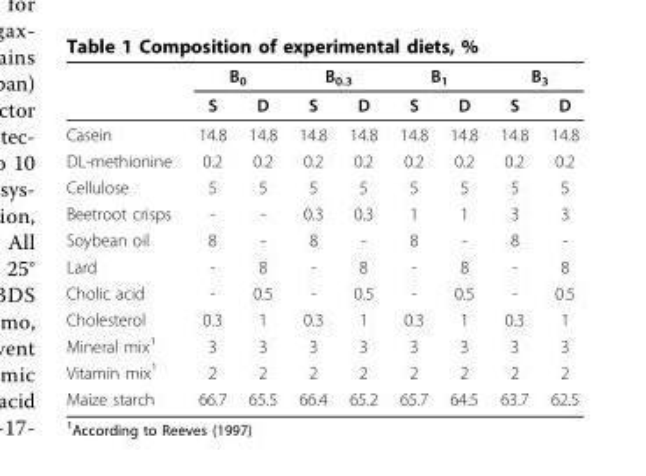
<table><thead><tr><td rowspan="2"></td><td colspan="2">B<sub>0</sub></td><td colspan="2">B<sub>0.3</sub></td><td colspan="2">B<sub>1</sub></td><td colspan="2">B<sub>3</sub></td></tr><tr><td>S</td><td>D</td><td>S</td><td>D</td><td>S</td><td>D</td><td>S</td><td>D</td></tr></thead><tbody><tr><td>Casein</td><td>14.8</td><td>14.8</td><td>14.8</td><td>14.8</td><td>14.8</td><td>14.8</td><td>14.8</td><td>14.8</td></tr><tr><td>DL-methionine</td><td>0.2</td><td>0.2</td><td>0.2</td><td>0.2</td><td>0.2</td><td>0.2</td><td>0.2</td><td>0.2</td></tr><tr><td>Cellulose</td><td>5</td><td>5</td><td>5</td><td>5</td><td>5</td><td>5</td><td>5</td><td>5</td></tr><tr><td>Beetroot crisps</td><td>-</td><td>-</td><td>0.3</td><td>0.3</td><td>1</td><td>1</td><td>3</td><td>3</td></tr><tr><td>Soybean oil</td><td>8</td><td>-</td><td>8</td><td>-</td><td>8</td><td>-</td><td>8</td><td>-</td></tr><tr><td>Lard</td><td>-</td><td>8</td><td>-</td><td>8</td><td>-</td><td>8</td><td>-</td><td>8</td></tr><tr><td>Cholic acid</td><td>-</td><td>0.5</td><td>-</td><td>0.5</td><td>-</td><td>0.5</td><td>-</td><td>0.5</td></tr><tr><td>Cholesterol</td><td>0.3</td><td>1</td><td>0.3</td><td>1</td><td>0.3</td><td>1</td><td>0.3</td><td>1</td></tr><tr><td>Mineral mix<sup>1</sup></td><td>3</td><td>3</td><td>3</td><td>3</td><td>3</td><td>3</td><td>3</td><td>3</td></tr><tr><td>Vitamin mix<sup>1</sup></td><td>2</td><td>2</td><td>2</td><td>2</td><td>2</td><td>2</td><td>2</td><td>2</td></tr><tr><td>Maize starch</td><td>66.7</td><td>65.5</td><td>66.4</td><td>65.2</td><td>65.7</td><td>64.5</td><td>63.7</td><td>62.5</td></tr></tbody></table>